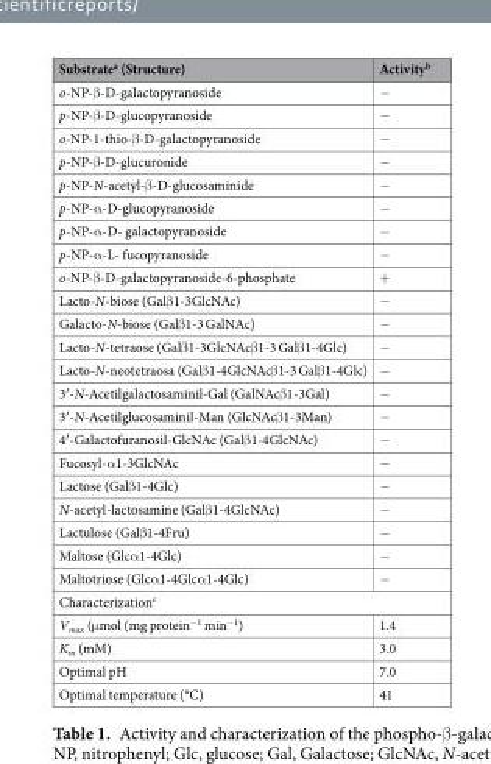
<table><thead><tr><td>Substrate<sup>a</sup> (Structure)</td><td>Activity<sup>b</sup></td></tr></thead><tbody><tr><td>o-NP-β-D-galactopyranoside</td><td>−</td></tr><tr><td>p-NP-β-D-glucopyranoside</td><td>−</td></tr><tr><td>o-NP-1-thio-β-D-galactopyranoside</td><td>−</td></tr><tr><td>p-NP-β-D-glucuronide</td><td>−</td></tr><tr><td>p-NP-N-acetyl-β-D-glucosaminide</td><td>−</td></tr><tr><td>p-NP-α-D-glucopyranoside</td><td>−</td></tr><tr><td>p-NP-α-D- galactopyranoside</td><td>−</td></tr><tr><td>p-NP-α-L- fucopyranoside</td><td>−</td></tr><tr><td>o-NP-β-D-galactopyranoside-6-phosphate</td><td>+</td></tr><tr><td>Lacto-N-biose (Galβ1-3GlcNAc)</td><td>−</td></tr><tr><td>Galacto-N-biose (Galβ1-3 GalNAc)</td><td>−</td></tr><tr><td>Lacto-N-tetraose (Galβ1-3GlcNAcβ1-3 Galβ1-4Glc)</td><td>−</td></tr><tr><td>Lacto-N-neotetraosa (Galβ1-4GlcNAcβ1-3 Galβ1-4Glc)</td><td>−</td></tr><tr><td>3′-N-Acetilgalactosaminil-Gal (GalNAcβ1-3Gal)</td><td>−</td></tr><tr><td>3′-N-Acetilglucosaminil-Man (GlcNAcβ1-3Man)</td><td>−</td></tr><tr><td>4′-Galactofuranosil-GlcNAc (Galβ1-4GlcNAc)</td><td>−</td></tr><tr><td>Fucosyl-α1-3GlcNAc</td><td>−</td></tr><tr><td>Lactose (Galβ1-4Glc)</td><td>−</td></tr><tr><td>N-acetyl-lactosamine (Galβ1-4GlcNAc)</td><td>−</td></tr><tr><td>Lactulose (Galβ1-4Fru)</td><td>−</td></tr><tr><td>Maltose (Glcα1-4Glc)</td><td>−</td></tr><tr><td>Maltotriose (Glcα1-4Glcα1-4Glc)</td><td>−</td></tr><tr><td colspan="2">Characterization<sup>c</sup></td></tr><tr><td>V<sub>max</sub> (μmol (mg protein<sup>−1</sup> min<sup>−1</sup>)</td><td>1.4</td></tr><tr><td>K<sub>m</sub> (mM)</td><td>3.0</td></tr><tr><td>Optimal pH</td><td>7.0</td></tr><tr><td>Optimal temperature (°C)</td><td>41</td></tr></tbody></table>